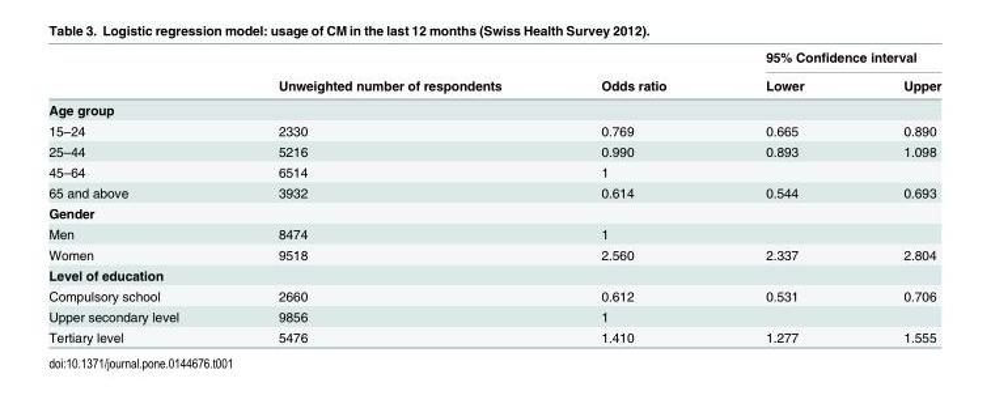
<table><thead><tr><td rowspan="2"></td><td rowspan="2">Unweighted number of respondents</td><td rowspan="2">Odds ratio</td><td colspan="2">95% Confidence interval</td></tr><tr><td>Lower</td><td>Upper</td></tr></thead><tbody><tr><td colspan="5">Age group</td></tr><tr><td>15–24</td><td>2330</td><td>0.769</td><td>0.665</td><td>0.890</td></tr><tr><td>25–44</td><td>5216</td><td>0.990</td><td>0.893</td><td>1.098</td></tr><tr><td>45–64</td><td>6514</td><td>1</td><td></td><td></td></tr><tr><td>65 and above</td><td>3932</td><td>0.614</td><td>0.544</td><td>0.693</td></tr><tr><td colspan="5">Gender</td></tr><tr><td>Men</td><td>8474</td><td>1</td><td></td><td></td></tr><tr><td>Women</td><td>9518</td><td>2.560</td><td>2.337</td><td>2.804</td></tr><tr><td colspan="5">Level of education</td></tr><tr><td>Compulsory school</td><td>2660</td><td>0.612</td><td>0.531</td><td>0.706</td></tr><tr><td>Upper secondary level</td><td>9856</td><td>1</td><td></td><td></td></tr><tr><td>Tertiary level</td><td>5476</td><td>1.410</td><td>1.277</td><td>1.555</td></tr></tbody></table>